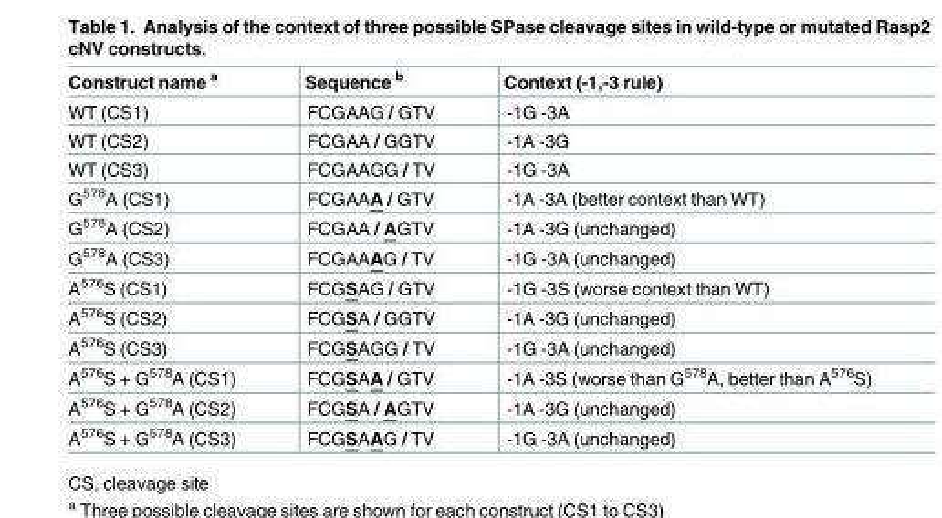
<table><thead><tr><td>Construct name <sup>a</sup></td><td>Sequence <sup>b</sup></td><td>Context (-1,-3 rule)</td></tr></thead><tbody><tr><td>WT (CS1)</td><td>FCGAAG / GTV</td><td>-1G -3A</td></tr><tr><td>WT (CS2)</td><td>FCGAA / GGTV</td><td>-1A -3G</td></tr><tr><td>WT (CS3)</td><td>FCGAAGG / TV</td><td>-1G -3A</td></tr><tr><td>G<sup>578</sup>A (CS1)</td><td>FCGAAA / GTV</td><td>-1A -3A (better context than WT)</td></tr><tr><td>G<sup>578</sup>A (CS2)</td><td>FCGAA / AGTV</td><td>-1A -3G (unchanged)</td></tr><tr><td>G<sup>578</sup>A (CS3)</td><td>FCGAAAG / TV</td><td>-1G -3A (unchanged)</td></tr><tr><td>A<sup>576</sup>S (CS1)</td><td>FCGSAG / GTV</td><td>-1G -3S (worse context than WT)</td></tr><tr><td>A<sup>576</sup>S (CS2)</td><td>FCGSA / GGTV</td><td>-1A -3G (unchanged)</td></tr><tr><td>A<sup>576</sup>S (CS3)</td><td>FCGSAGG / TV</td><td>-1G -3A (unchanged)</td></tr><tr><td>A<sup>576</sup>S + G<sup>578</sup>A (CS1)</td><td>FCGSAA / GTV</td><td>-1A -3S (worse than G<sup>578</sup>A, better than A<sup>576</sup>S)</td></tr><tr><td>A<sup>576</sup>S + G<sup>578</sup>A (CS2)</td><td>FCGSA / AGTV</td><td>-1A -3G (unchanged)</td></tr><tr><td>A<sup>576</sup>S + G<sup>578</sup>A (CS3)</td><td>FCGSAAG / TV</td><td>-1G -3A (unchanged)</td></tr></tbody></table>